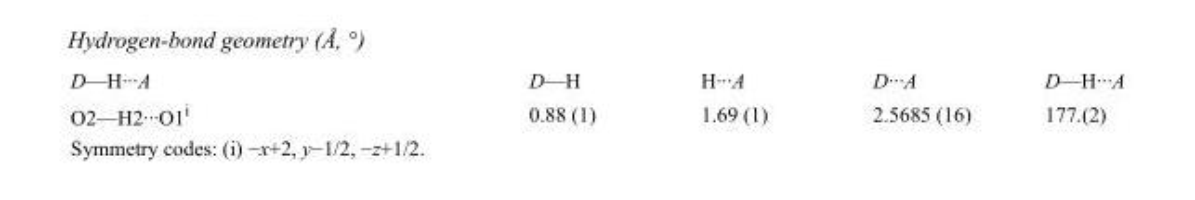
<table><tbody><tr><td>D—H···A</td><td>D—H</td><td>H···A</td><td>D···A</td><td>D—H···A</td></tr><tr><td>O2—H2···O1<sup>i</sup></td><td>0.88 (1)</td><td>1.69 (1)</td><td>2.5685 (16)</td><td>177.(2)</td></tr></tbody></table>